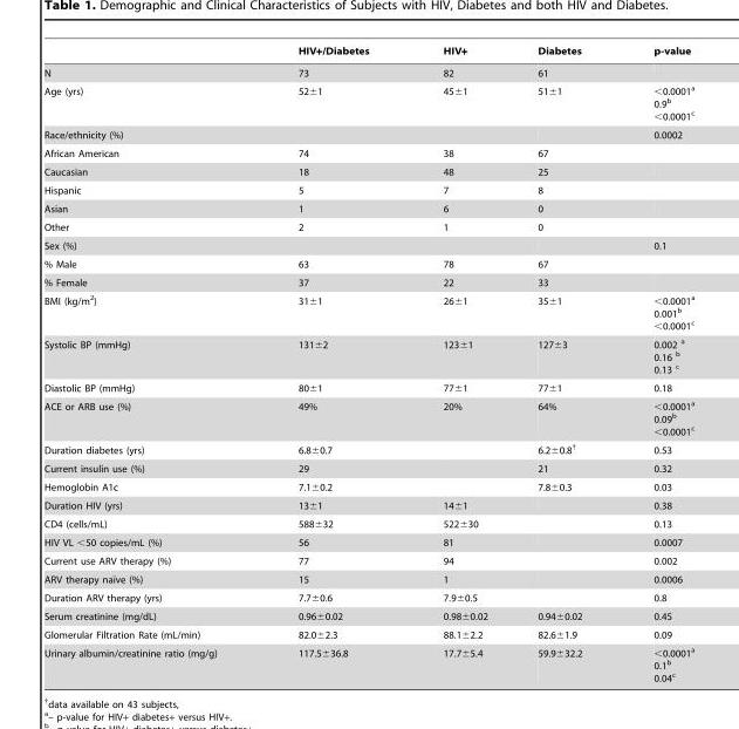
<table><thead><tr><td></td><td>HIV+/Diabetes</td><td>HIV+</td><td>Diabetes</td><td>p-value</td></tr></thead><tbody><tr><td>N</td><td>73</td><td>82</td><td>61</td><td></td></tr><tr><td>Age (yrs)</td><td>52±1</td><td>45±1</td><td>51±1</td><td>&lt;0.0001<sup>a</sup> 0.9<sup>b</sup> &lt;0.0001<sup>c</sup></td></tr><tr><td>Race/ethnicity (%)</td><td></td><td></td><td></td><td>0.0002</td></tr><tr><td>African American</td><td>74</td><td>38</td><td>67</td><td></td></tr><tr><td>Caucasian</td><td>18</td><td>48</td><td>25</td><td></td></tr><tr><td>Hispanic</td><td>5</td><td>7</td><td>8</td><td></td></tr><tr><td>Asian</td><td>1</td><td>6</td><td>0</td><td></td></tr><tr><td>Other</td><td>2</td><td>1</td><td>0</td><td></td></tr><tr><td>Sex (%)</td><td></td><td></td><td></td><td>0.1</td></tr><tr><td>% Male</td><td>63</td><td>78</td><td>67</td><td></td></tr><tr><td>% Female</td><td>37</td><td>22</td><td>33</td><td></td></tr><tr><td>BMI (kg/m<sup>2</sup>)</td><td>31±1</td><td>26±1</td><td>35±1</td><td>&lt;0.0001<sup>a</sup> 0.001<sup>b</sup> &lt;0.0001<sup>c</sup></td></tr><tr><td>Systolic BP (mmHg)</td><td>131±2</td><td>123±1</td><td>127±3</td><td>0.002 a 0.16 b 0.13 c</td></tr><tr><td>Diastolic BP (mmHg)</td><td>80±1</td><td>77±1</td><td>77±1</td><td>0.18</td></tr><tr><td>ACE or ARB use (%)</td><td>49%</td><td>20%</td><td>64%</td><td>&lt;0.0001<sup>a</sup> 0.09<sup>b</sup> &lt;0.0001<sup>c</sup></td></tr><tr><td>Duration diabetes (yrs)</td><td>6.8±0.7</td><td></td><td>6.2±0.8†</td><td>0.53</td></tr><tr><td>Current insulin use (%)</td><td>29</td><td></td><td>21</td><td>0.32</td></tr><tr><td>Hemoglobin A1c</td><td>7.1±0.2</td><td></td><td>7.8±0.3</td><td>0.03</td></tr><tr><td>Duration HIV (yrs)</td><td>13±1</td><td>14±1</td><td></td><td>0.38</td></tr><tr><td>CD4 (cells/mL)</td><td>588±32</td><td>522±30</td><td></td><td>0.13</td></tr><tr><td>HIV VL &lt;50 copies/mL (%)</td><td>56</td><td>81</td><td></td><td>0.0007</td></tr><tr><td>Current use ARV therapy (%)</td><td>77</td><td>94</td><td></td><td>0.002</td></tr><tr><td>ARV therapy naı¨ve (%)</td><td>15</td><td>1</td><td></td><td>0.0006</td></tr><tr><td>Duration ARV therapy (yrs)</td><td>7.7±0.6</td><td>7.9±0.5</td><td></td><td>0.8</td></tr><tr><td>Serum creatinine (mg/dL)</td><td>0.96±0.02</td><td>0.98±0.02</td><td>0.94±0.02</td><td>0.45</td></tr><tr><td>Glomerular Filtration Rate (mL/min)</td><td>82.0±2.3</td><td>88.1±2.2</td><td>82.6±1.9</td><td>0.09</td></tr><tr><td>Urinary albumin/creatinine ratio (mg/g)</td><td>117.5±36.8</td><td>17.7±5.4</td><td>59.9±32.2</td><td>&lt;0.0001<sup>a</sup> 0.1<sup>b</sup> 0.04<sup>c</sup></td></tr></tbody></table>